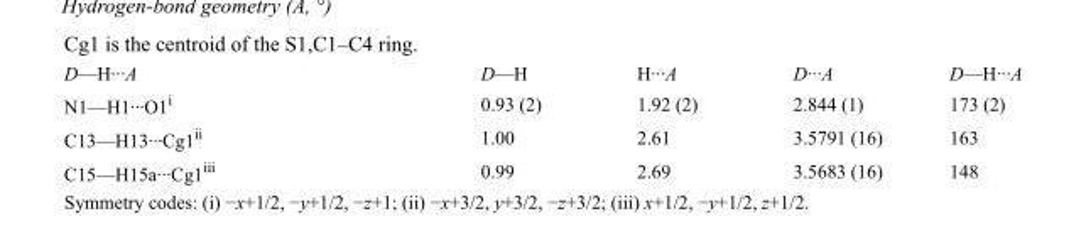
<table><tbody><tr><td>D—H···A</td><td>D—H</td><td>H···A</td><td>D···A</td><td>D—H···A</td></tr><tr><td>N1—H1···O1<sup>i</sup></td><td>0.93 (2)</td><td>1.92 (2)</td><td>2.844 (1)</td><td>173 (2)</td></tr><tr><td>C13—H13···Cg1<sup>ii</sup></td><td>1.00</td><td>2.61</td><td>3.5791 (16)</td><td>163</td></tr><tr><td>C15—H15a···Cg1<sup>iii</sup></td><td>0.99</td><td>2.69</td><td>3.5683 (16)</td><td>148</td></tr></tbody></table>